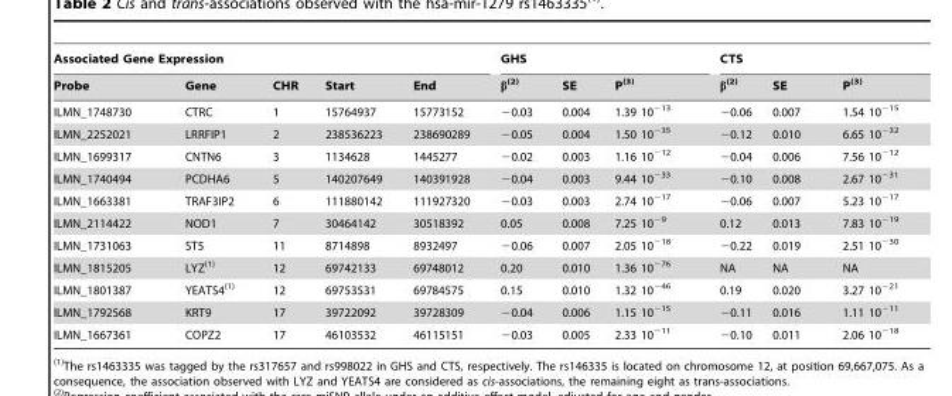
<table><thead><tr><td colspan="5">Associated Gene Expression</td><td colspan="3">GHS</td><td colspan="3">CTS</td></tr><tr><td>Probe</td><td>Gene</td><td>CHR</td><td>Start</td><td>End</td><td>β(2)</td><td>SE</td><td>P(3)</td><td>β(2)</td><td>SE</td><td>P(3)</td></tr></thead><tbody><tr><td>ILMN_1748730</td><td>CTRC</td><td>1</td><td>15764937</td><td>15773152</td><td>−0.03</td><td>0.004</td><td>1.39 10<sup>−13</sup></td><td>−0.06</td><td>0.007</td><td>1.54 10<sup>−15</sup></td></tr><tr><td>ILMN_2252021</td><td>LRRFIP1</td><td>2</td><td>238536223</td><td>238690289</td><td>−0.05</td><td>0.004</td><td>1.50 10<sup>−35</sup></td><td>−0.12</td><td>0.010</td><td>6.65 10<sup>−32</sup></td></tr><tr><td>ILMN_1699317</td><td>CNTN6</td><td>3</td><td>1134628</td><td>1445277</td><td>−0.02</td><td>0.003</td><td>1.16 10<sup>−12</sup></td><td>−0.04</td><td>0.006</td><td>7.56 10<sup>−12</sup></td></tr><tr><td>ILMN_1740494</td><td>PCDHA6</td><td>5</td><td>140207649</td><td>140391928</td><td>−0.04</td><td>0.003</td><td>9.44 10<sup>−33</sup></td><td>−0.10</td><td>0.008</td><td>2.67 10<sup>−31</sup></td></tr><tr><td>ILMN_1663381</td><td>TRAF3IP2</td><td>6</td><td>111880142</td><td>111927320</td><td>−0.03</td><td>0.003</td><td>2.74 10<sup>−17</sup></td><td>−0.06</td><td>0.007</td><td>5.23 10<sup>−17</sup></td></tr><tr><td>ILMN_2114422</td><td>NOD1</td><td>7</td><td>30464142</td><td>30518392</td><td>0.05</td><td>0.008</td><td>7.25 10<sup>−9</sup></td><td>0.12</td><td>0.013</td><td>7.83 10<sup>−19</sup></td></tr><tr><td>ILMN_1731063</td><td>ST5</td><td>11</td><td>8714898</td><td>8932497</td><td>−0.06</td><td>0.007</td><td>2.05 10<sup>−18</sup></td><td>−0.22</td><td>0.019</td><td>2.51 10<sup>−30</sup></td></tr><tr><td>ILMN_1815205</td><td>LYZ(1)</td><td>12</td><td>69742133</td><td>69748012</td><td>0.20</td><td>0.010</td><td>1.36 10<sup>−76</sup></td><td>NA</td><td>NA</td><td>NA</td></tr><tr><td>ILMN_1801387</td><td>YEATS4(1)</td><td>12</td><td>69753531</td><td>69784575</td><td>0.15</td><td>0.010</td><td>1.32 10<sup>−46</sup></td><td>0.19</td><td>0.020</td><td>3.27 10<sup>−21</sup></td></tr><tr><td>ILMN_1792568</td><td>KRT9</td><td>17</td><td>39722092</td><td>39728309</td><td>−0.04</td><td>0.006</td><td>1.15 10<sup>−15</sup></td><td>−0.11</td><td>0.016</td><td>1.11 10<sup>−11</sup></td></tr><tr><td>ILMN_1667361</td><td>COPZ2</td><td>17</td><td>46103532</td><td>46115151</td><td>−0.03</td><td>0.005</td><td>2.33 10<sup>−11</sup></td><td>−0.10</td><td>0.011</td><td>2.06 10<sup>−18</sup></td></tr></tbody></table>